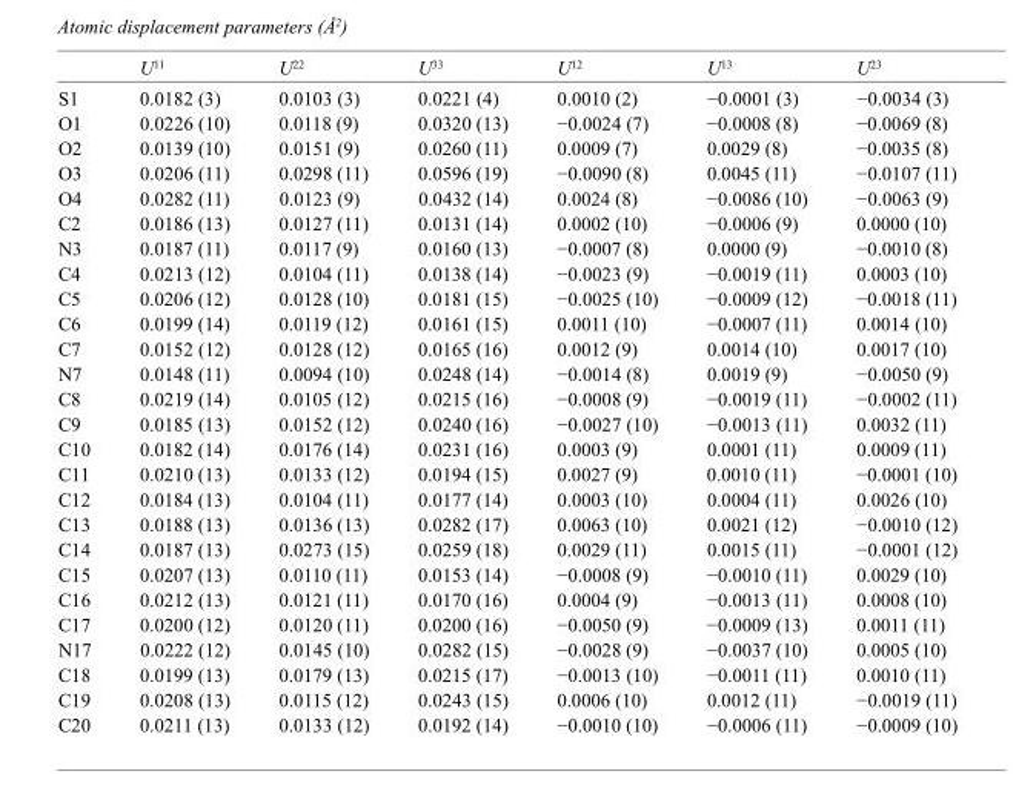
<table><thead><tr><td></td><td>U<sup>11</sup></td><td>U<sup>22</sup></td><td>U<sup>33</sup></td><td>U<sup>12</sup></td><td>U<sup>13</sup></td><td>U<sup>23</sup></td></tr></thead><tbody><tr><td>S1</td><td>0.0182 (3)</td><td>0.0103 (3)</td><td>0.0221 (4)</td><td>0.0010 (2)</td><td>−0.0001 (3)</td><td>−0.0034 (3)</td></tr><tr><td>O1</td><td>0.0226 (10)</td><td>0.0118 (9)</td><td>0.0320 (13)</td><td>−0.0024 (7)</td><td>−0.0008 (8)</td><td>−0.0069 (8)</td></tr><tr><td>O2</td><td>0.0139 (10)</td><td>0.0151 (9)</td><td>0.0260 (11)</td><td>0.0009 (7)</td><td>0.0029 (8)</td><td>−0.0035 (8)</td></tr><tr><td>O3</td><td>0.0206 (11)</td><td>0.0298 (11)</td><td>0.0596 (19)</td><td>−0.0090 (8)</td><td>0.0045 (11)</td><td>−0.0107 (11)</td></tr><tr><td>O4</td><td>0.0282 (11)</td><td>0.0123 (9)</td><td>0.0432 (14)</td><td>0.0024 (8)</td><td>−0.0086 (10)</td><td>−0.0063 (9)</td></tr><tr><td>C2</td><td>0.0186 (13)</td><td>0.0127 (11)</td><td>0.0131 (14)</td><td>0.0002 (10)</td><td>−0.0006 (9)</td><td>0.0000 (10)</td></tr><tr><td>N3</td><td>0.0187 (11)</td><td>0.0117 (9)</td><td>0.0160 (13)</td><td>−0.0007 (8)</td><td>0.0000 (9)</td><td>−0.0010 (8)</td></tr><tr><td>C4</td><td>0.0213 (12)</td><td>0.0104 (11)</td><td>0.0138 (14)</td><td>−0.0023 (9)</td><td>−0.0019 (11)</td><td>0.0003 (10)</td></tr><tr><td>C5</td><td>0.0206 (12)</td><td>0.0128 (10)</td><td>0.0181 (15)</td><td>−0.0025 (10)</td><td>−0.0009 (12)</td><td>−0.0018 (11)</td></tr><tr><td>C6</td><td>0.0199 (14)</td><td>0.0119 (12)</td><td>0.0161 (15)</td><td>0.0011 (10)</td><td>−0.0007 (11)</td><td>0.0014 (10)</td></tr><tr><td>C7</td><td>0.0152 (12)</td><td>0.0128 (12)</td><td>0.0165 (16)</td><td>0.0012 (9)</td><td>0.0014 (10)</td><td>0.0017 (10)</td></tr><tr><td>N7</td><td>0.0148 (11)</td><td>0.0094 (10)</td><td>0.0248 (14)</td><td>−0.0014 (8)</td><td>0.0019 (9)</td><td>−0.0050 (9)</td></tr><tr><td>C8</td><td>0.0219 (14)</td><td>0.0105 (12)</td><td>0.0215 (16)</td><td>−0.0008 (9)</td><td>−0.0019 (11)</td><td>−0.0002 (11)</td></tr><tr><td>C9</td><td>0.0185 (13)</td><td>0.0152 (12)</td><td>0.0240 (16)</td><td>−0.0027 (10)</td><td>−0.0013 (11)</td><td>0.0032 (11)</td></tr><tr><td>C10</td><td>0.0182 (14)</td><td>0.0176 (14)</td><td>0.0231 (16)</td><td>0.0003 (9)</td><td>0.0001 (11)</td><td>0.0009 (11)</td></tr><tr><td>C11</td><td>0.0210 (13)</td><td>0.0133 (12)</td><td>0.0194 (15)</td><td>0.0027 (9)</td><td>0.0010 (11)</td><td>−0.0001 (10)</td></tr><tr><td>C12</td><td>0.0184 (13)</td><td>0.0104 (11)</td><td>0.0177 (14)</td><td>0.0003 (10)</td><td>0.0004 (11)</td><td>0.0026 (10)</td></tr><tr><td>C13</td><td>0.0188 (13)</td><td>0.0136 (13)</td><td>0.0282 (17)</td><td>0.0063 (10)</td><td>0.0021 (12)</td><td>−0.0010 (12)</td></tr><tr><td>C14</td><td>0.0187 (13)</td><td>0.0273 (15)</td><td>0.0259 (18)</td><td>0.0029 (11)</td><td>0.0015 (11)</td><td>−0.0001 (12)</td></tr><tr><td>C15</td><td>0.0207 (13)</td><td>0.0110 (11)</td><td>0.0153 (14)</td><td>−0.0008 (9)</td><td>−0.0010 (11)</td><td>0.0029 (10)</td></tr><tr><td>C16</td><td>0.0212 (13)</td><td>0.0121 (11)</td><td>0.0170 (16)</td><td>0.0004 (9)</td><td>−0.0013 (11)</td><td>0.0008 (10)</td></tr><tr><td>C17</td><td>0.0200 (12)</td><td>0.0120 (11)</td><td>0.0200 (16)</td><td>−0.0050 (9)</td><td>−0.0009 (13)</td><td>0.0011 (11)</td></tr><tr><td>N17</td><td>0.0222 (12)</td><td>0.0145 (10)</td><td>0.0282 (15)</td><td>−0.0028 (9)</td><td>−0.0037 (10)</td><td>0.0005 (10)</td></tr><tr><td>C18</td><td>0.0199 (13)</td><td>0.0179 (13)</td><td>0.0215 (17)</td><td>−0.0013 (10)</td><td>−0.0011 (11)</td><td>0.0010 (11)</td></tr><tr><td>C19</td><td>0.0208 (13)</td><td>0.0115 (12)</td><td>0.0243 (15)</td><td>0.0006 (10)</td><td>0.0012 (11)</td><td>−0.0019 (11)</td></tr><tr><td>C20</td><td>0.0211 (13)</td><td>0.0133 (12)</td><td>0.0192 (14)</td><td>−0.0010 (10)</td><td>−0.0006 (11)</td><td>−0.0009 (10)</td></tr></tbody></table>